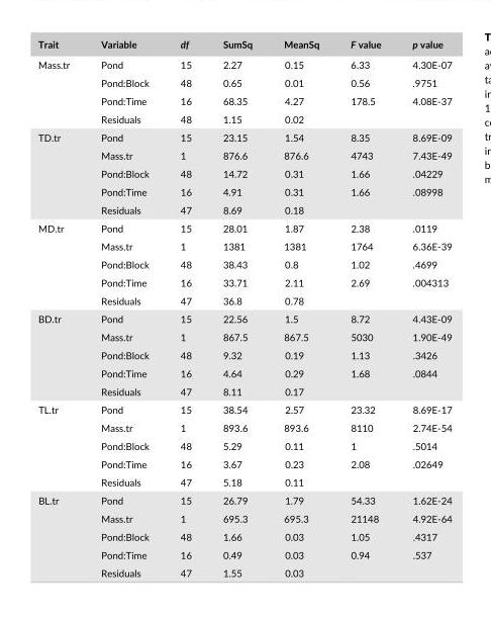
<table><thead><tr><td>Trait</td><td>Variable</td><td>df</td><td>SumSq</td><td>MeanSq</td><td>F value</td><td>p value</td></tr></thead><tbody><tr><td rowspan="4">Mass.tr</td><td>Pond</td><td>15</td><td>2.27</td><td>0.15</td><td>6.33</td><td>4.30E- 07</td></tr><tr><td>Pond:Block</td><td>48</td><td>0.65</td><td>0.01</td><td>0.56</td><td>.9751</td></tr><tr><td>Pond:Time</td><td>16</td><td>68.35</td><td>4.27</td><td>178.5</td><td>4.08E- 37</td></tr><tr><td>Residuals</td><td>48</td><td>1.15</td><td>0.02</td><td></td><td></td></tr><tr><td rowspan="5">TD.tr</td><td>Pond</td><td>15</td><td>23.15</td><td>1.54</td><td>8.35</td><td>8.69E- 09</td></tr><tr><td>Mass.tr</td><td>1</td><td>876.6</td><td>876.6</td><td>4743</td><td>7.43E- 49</td></tr><tr><td>Pond:Block</td><td>48</td><td>14.72</td><td>0.31</td><td>1.66</td><td>.04229</td></tr><tr><td>Pond:Time</td><td>16</td><td>4.91</td><td>0.31</td><td>1.66</td><td>.08998</td></tr><tr><td>Residuals</td><td>47</td><td>8.69</td><td>0.18</td><td></td><td></td></tr><tr><td rowspan="5">MD.tr</td><td>Pond</td><td>15</td><td>28.01</td><td>1.87</td><td>2.38</td><td>.0119</td></tr><tr><td>Mass.tr</td><td>1</td><td>1381</td><td>1381</td><td>1764</td><td>6.36E- 39</td></tr><tr><td>Pond:Block</td><td>48</td><td>38.43</td><td>0.8</td><td>1.02</td><td>.4699</td></tr><tr><td>Pond:Time</td><td>16</td><td>33.71</td><td>2.11</td><td>2.69</td><td>.004313</td></tr><tr><td>Residuals</td><td>47</td><td>36.8</td><td>0.78</td><td></td><td></td></tr><tr><td rowspan="5">BD.tr</td><td>Pond</td><td>15</td><td>22.56</td><td>1.5</td><td>8.72</td><td>4.43E- 09</td></tr><tr><td>Mass.tr</td><td>1</td><td>867.5</td><td>867.5</td><td>5030</td><td>1.90E- 49</td></tr><tr><td>Pond:Block</td><td>48</td><td>9.32</td><td>0.19</td><td>1.13</td><td>.3426</td></tr><tr><td>Pond:Time</td><td>16</td><td>4.64</td><td>0.29</td><td>1.68</td><td>.0844</td></tr><tr><td>Residuals</td><td>47</td><td>8.11</td><td>0.17</td><td></td><td></td></tr><tr><td rowspan="5">TL.tr</td><td>Pond</td><td>15</td><td>38.54</td><td>2.57</td><td>23.32</td><td>8.69E- 17</td></tr><tr><td>Mass.tr</td><td>1</td><td>893.6</td><td>893.6</td><td>8110</td><td>2.74E- 54</td></tr><tr><td>Pond:Block</td><td>48</td><td>5.29</td><td>0.11</td><td>1</td><td>.5014</td></tr><tr><td>Pond:Time</td><td>16</td><td>3.67</td><td>0.23</td><td>2.08</td><td>.02649</td></tr><tr><td>Residuals</td><td>47</td><td>5.18</td><td>0.11</td><td></td><td></td></tr><tr><td rowspan="5">BL.tr</td><td>Pond</td><td>15</td><td>26.79</td><td>1.79</td><td>54.33</td><td>1.62E- 24</td></tr><tr><td>Mass.tr</td><td>1</td><td>695.3</td><td>695.3</td><td>21148</td><td>4.92E- 64</td></tr><tr><td>Pond:Block</td><td>48</td><td>1.66</td><td>0.03</td><td>1.05</td><td>.4317</td></tr><tr><td>Pond:Time</td><td>16</td><td>0.49</td><td>0.03</td><td>0.94</td><td>.537</td></tr><tr><td>Residuals</td><td>47</td><td>1.55</td><td>0.03</td><td></td><td></td></tr></tbody></table>